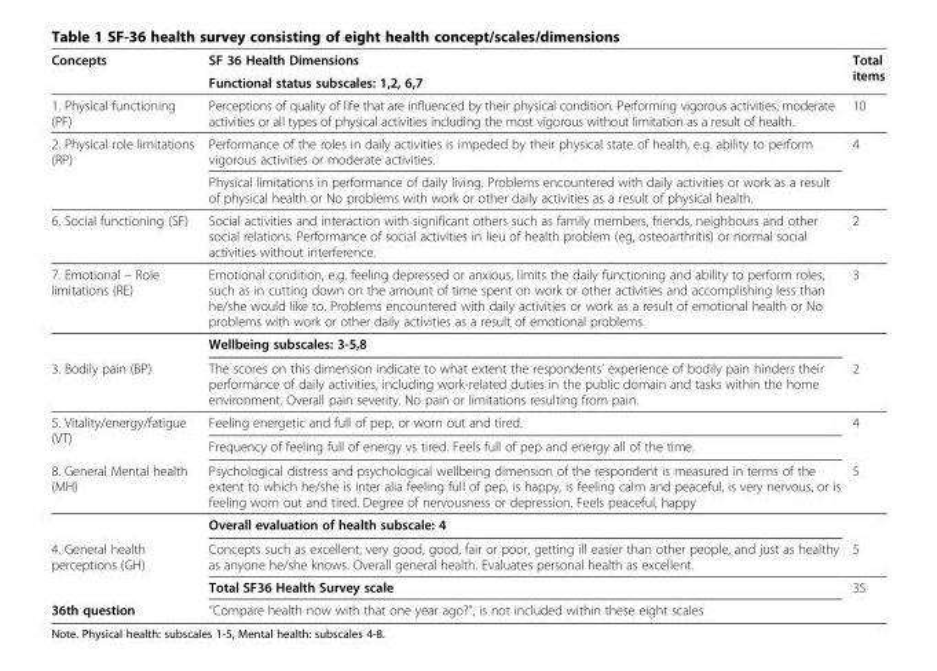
<table><thead><tr><td rowspan="2">Concepts</td><td rowspan="2">SF 36 Health Dimensions Functional status subscales: 1,2, 6,7</td><td rowspan="2">Total items</td></tr><tr></tr></thead><tbody><tr><td>1. Physical functioning (PF)</td><td>Perceptions of quality of life that are influenced by their physical condition. Performing vigorous activities, moderate activities or all types of physical activities including the most vigorous without limitation as a result of health.</td><td>10</td></tr><tr><td rowspan="2">2. Physical role limitations (RP)</td><td>Performance of the roles in daily activities is impeded by their physical state of health, e.g. ability to perform vigorous activities or moderate activities.</td><td>4</td></tr><tr><td>Physical limitations in performance of daily living. Problems encountered with daily activities or work as a result of physical health or No problems with work or other daily activities as a result of physical health.</td><td></td></tr><tr><td>6. Social functioning (SF)</td><td>Social activities and interaction with significant others such as family members, friends, neighbours and other social relations. Performance of social activities in lieu of health problem (eg, osteoarthritis) or normal social activities without interference.</td><td>2</td></tr><tr><td rowspan="2">7. Emotional – Role limitations (RE)</td><td>Emotional condition, e.g. feeling depressed or anxious, limits the daily functioning and ability to perform roles, such as in cutting down on the amount of time spent on work or other activities and accomplishing less than he/she would like to. Problems encountered with daily activities or work as a result of emotional health or No problems with work or other daily activities as a result of emotional problems.</td><td>3</td></tr><tr><td>Wellbeing subscales: 3-5,8</td><td></td></tr><tr><td>3. Bodily pain (BP)</td><td>The scores on this dimension indicate to what extent the respondents’ experience of bodily pain hinders their performance of daily activities, including work-related duties in the public domain and tasks within the home environment. Overall pain severity. No pain or limitations resulting from pain.</td><td>2</td></tr><tr><td rowspan="2">5. Vitality/energy/fatigue (VT)</td><td>Feeling energetic and full of pep, or worn out and tired.</td><td>4</td></tr><tr><td>Frequency of feeling full of energy vs tired. Feels full of pep and energy all of the time.</td><td></td></tr><tr><td rowspan="2">8. General Mental health (MH)</td><td>Psychological distress and psychological wellbeing dimension of the respondent is measured in terms of the extent to which he/she is inter alia feeling full of pep, is happy, is feeling calm and peaceful, is very nervous, or is feeling worn out and tired. Degree of nervousness or depression. Feels peaceful, happy</td><td>5</td></tr><tr><td>Overall evaluation of health subscale: 4</td><td></td></tr><tr><td rowspan="2">4. General health perceptions (GH)</td><td>Concepts such as excellent, very good, good, fair or poor, getting ill easier than other people, and just as healthy as anyone he/she knows. Overall general health. Evaluates personal health as excellent.</td><td>5</td></tr><tr><td>Total SF36 Health Survey scale</td><td rowspan="2">35</td></tr><tr><td>36th question</td><td>“Compare health now with that one year ago?”, is not included within these eight scales</td></tr></tbody></table>